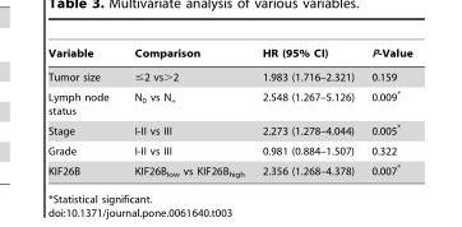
<table><thead><tr><td>Variable</td><td>Comparison</td><td>HR (95% CI)</td><td>P-Value</td></tr></thead><tbody><tr><td>Tumor size</td><td>≤2 vs&gt;2</td><td>1.983 (1.716–2.321)</td><td>0.159</td></tr><tr><td>Lymph node status</td><td>N<sub>0</sub> vs N<sub>+</sub></td><td>2.548 (1.267–5.126)</td><td>0.009*</td></tr><tr><td>Stage</td><td>I-II vs III</td><td>2.273 (1.278–4.044)</td><td>0.005*</td></tr><tr><td>Grade</td><td>I-II vs III</td><td>0.981 (0.884–1.507)</td><td>0.322</td></tr><tr><td>KIF26B</td><td>KIF26B<sub>low</sub> vs KIF26B<sub>high</sub></td><td>2.356 (1.268–4.378)</td><td>0.007*</td></tr></tbody></table>